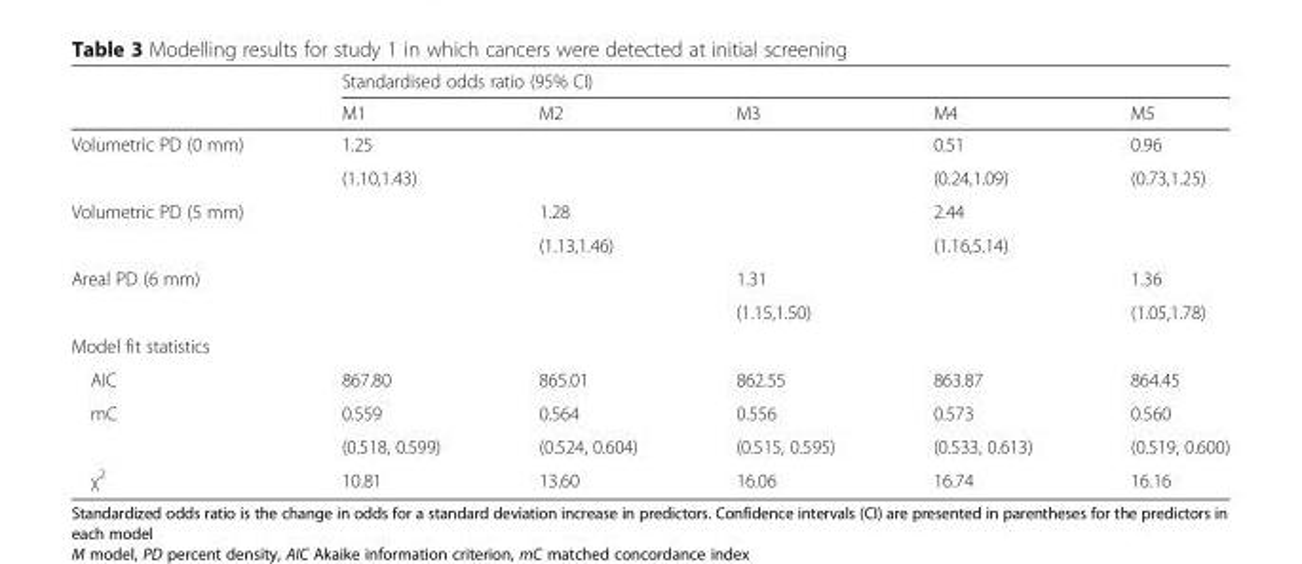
<table><thead><tr><td rowspan="2"></td><td colspan="5">Standardised odds ratio (95% CI)</td></tr><tr><td>M1</td><td>M2</td><td>M3</td><td>M4</td><td>M5</td></tr></thead><tbody><tr><td rowspan="2">Volumetric PD (0 mm)</td><td>1.25</td><td></td><td></td><td>0.51</td><td>0.96</td></tr><tr><td colspan="2">(1.10,1.43)</td><td></td><td>(0.24,1.09)</td><td>(0.73,1.25)</td></tr><tr><td rowspan="2">Volumetric PD (5 mm)</td><td></td><td>1.28</td><td></td><td>2.44</td><td></td></tr><tr><td></td><td colspan="2">(1.13,1.46)</td><td>(1.16,5.14)</td><td></td></tr><tr><td rowspan="2">Areal PD (6 mm)</td><td></td><td></td><td>1.31</td><td></td><td>1.36</td></tr><tr><td></td><td></td><td colspan="2">(1.15,1.50)</td><td>(1.05,1.78)</td></tr><tr><td colspan="6">Model fit statistics</td></tr><tr><td>AIC</td><td>867.80</td><td>865.01</td><td>862.55</td><td>863.87</td><td>864.45</td></tr><tr><td rowspan="2">mC</td><td>0.559</td><td>0.564</td><td>0.556</td><td>0.573</td><td>0.560</td></tr><tr><td>(0.518, 0.599)</td><td>(0.524, 0.604)</td><td>(0.515, 0.595)</td><td>(0.533, 0.613)</td><td>(0.519, 0.600)</td></tr><tr><td>χ<sup>2</sup></td><td>10.81</td><td>13.60</td><td>16.06</td><td>16.74</td><td>16.16</td></tr></tbody></table>